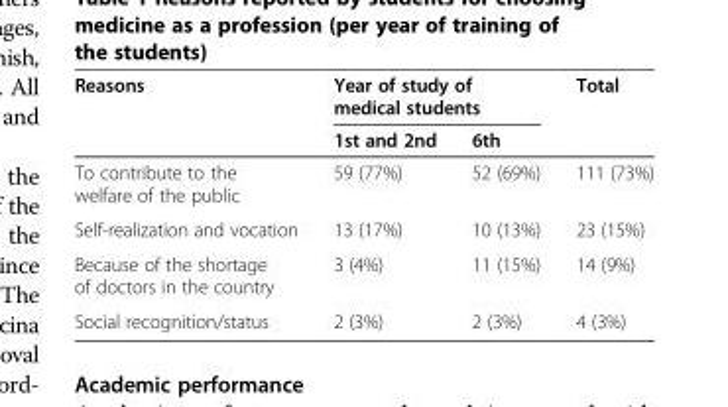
<table><thead><tr><td rowspan="2">Reasons</td><td colspan="2">Year of study of medical students</td><td rowspan="2">Total</td></tr><tr><td>1st and 2nd</td><td>6th</td></tr></thead><tbody><tr><td>To contribute to the welfare of the public</td><td>59 (77%)</td><td>52 (69%)</td><td>111 (73%)</td></tr><tr><td>Self-realization and vocation</td><td>13 (17%)</td><td>10 (13%)</td><td>23 (15%)</td></tr><tr><td>Because of the shortage of doctors in the country</td><td>3 (4%)</td><td>11 (15%)</td><td>14 (9%)</td></tr><tr><td>Social recognition/status</td><td>2 (3%)</td><td>2 (3%)</td><td>4 (3%)</td></tr></tbody></table>